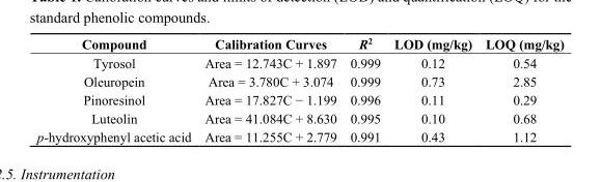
<table><thead><tr><td>Compound</td><td>Calibration Curves</td><td>R<sup>2</sup></td><td>LOD (mg/kg)</td><td>LOQ (mg/kg)</td></tr></thead><tbody><tr><td>Tyrosol</td><td>Area = 12.743C + 1.897</td><td>0.999</td><td>0.12</td><td>0.54</td></tr><tr><td>Oleuropein</td><td>Area = 3.780C + 3.074</td><td>0.999</td><td>0.73</td><td>2.85</td></tr><tr><td>Pinoresinol</td><td>Area = 17.827C − 1.199</td><td>0.996</td><td>0.11</td><td>0.29</td></tr><tr><td>Luteolin</td><td>Area = 41.084C + 8.630</td><td>0.995</td><td>0.10</td><td>0.68</td></tr><tr><td>p-hydroxyphenyl acetic acid</td><td>Area = 11.255C + 2.779</td><td>0.991</td><td>0.43</td><td>1.12</td></tr></tbody></table>